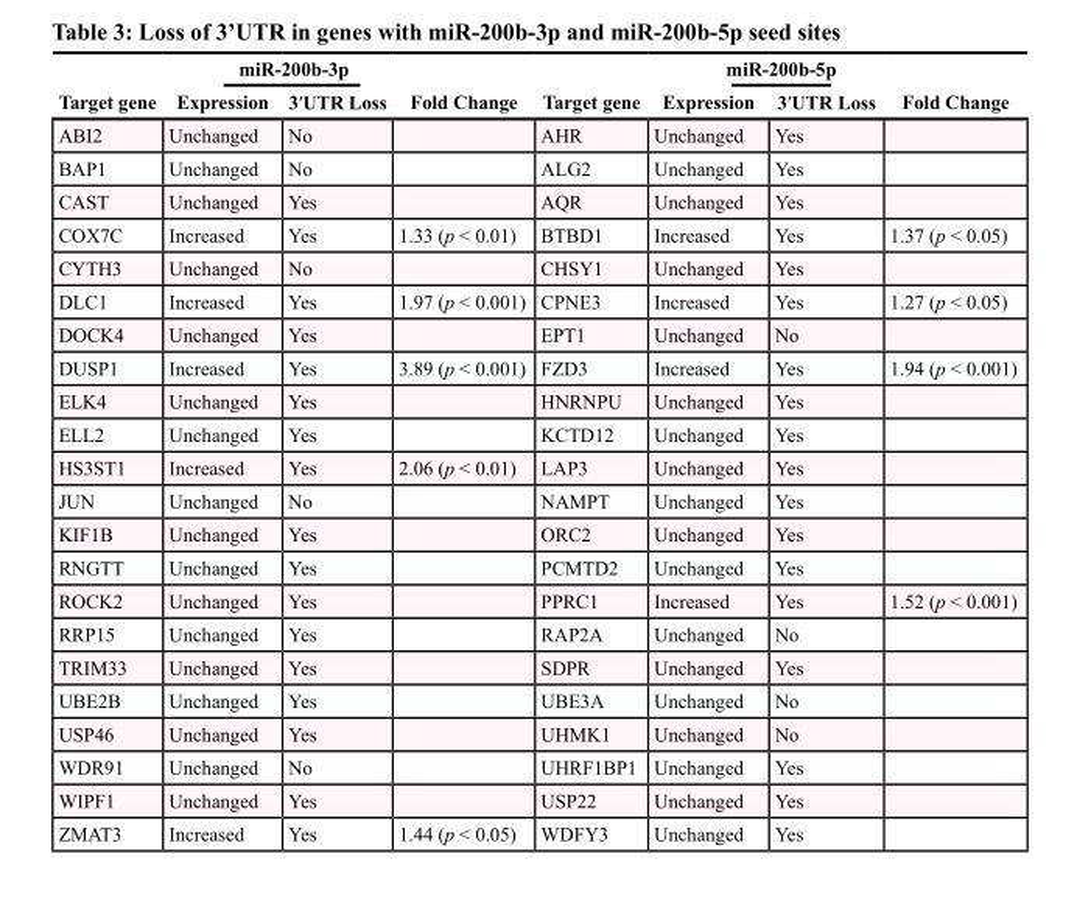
<table><thead><tr><td rowspan="2">Target gene</td><td colspan="2">miR-200b-3p</td><td rowspan="2">Fold Change</td><td rowspan="2">Target gene</td><td colspan="2">miR-200b-5p</td><td rowspan="2">Fold Change</td></tr><tr><td>Expression</td><td>3′UTR Loss</td><td>Expression</td><td>3′UTR Loss</td></tr></thead><tbody><tr><td>ABI2</td><td>Unchanged</td><td>No</td><td></td><td>AHR</td><td>Unchanged</td><td>Yes</td><td></td></tr><tr><td>BAP1</td><td>Unchanged</td><td>No</td><td></td><td>ALG2</td><td>Unchanged</td><td>Yes</td><td></td></tr><tr><td>CAST</td><td>Unchanged</td><td>Yes</td><td></td><td>AQR</td><td>Unchanged</td><td>Yes</td><td></td></tr><tr><td>COX7C</td><td>Increased</td><td>Yes</td><td>1.33 (p &lt; 0.01)</td><td>BTBD1</td><td>Increased</td><td>Yes</td><td>1.37 (p &lt; 0.05)</td></tr><tr><td>CYTH3</td><td>Unchanged</td><td>No</td><td></td><td>CHSY1</td><td>Unchanged</td><td>Yes</td><td></td></tr><tr><td>DLC1</td><td>Increased</td><td>Yes</td><td>1.97 (p &lt; 0.001)</td><td>CPNE3</td><td>Increased</td><td>Yes</td><td>1.27 (p &lt; 0.05)</td></tr><tr><td>DOCK4</td><td>Unchanged</td><td>Yes</td><td></td><td>EPT1</td><td>Unchanged</td><td>No</td><td></td></tr><tr><td>DUSP1</td><td>Increased</td><td>Yes</td><td>3.89 (p &lt; 0.001)</td><td>FZD3</td><td>Increased</td><td>Yes</td><td>1.94 (p &lt; 0.001)</td></tr><tr><td>ELK4</td><td>Unchanged</td><td>Yes</td><td></td><td>HNRNPU</td><td>Unchanged</td><td>Yes</td><td></td></tr><tr><td>ELL2</td><td>Unchanged</td><td>Yes</td><td></td><td>KCTD12</td><td>Unchanged</td><td>Yes</td><td></td></tr><tr><td>HS3ST1</td><td>Increased</td><td>Yes</td><td>2.06 (p &lt; 0.01)</td><td>LAP3</td><td>Unchanged</td><td>Yes</td><td></td></tr><tr><td>JUN</td><td>Unchanged</td><td>No</td><td></td><td>NAMPT</td><td>Unchanged</td><td>Yes</td><td></td></tr><tr><td>KIF1B</td><td>Unchanged</td><td>Yes</td><td></td><td>ORC2</td><td>Unchanged</td><td>Yes</td><td></td></tr><tr><td>RNGTT</td><td>Unchanged</td><td>Yes</td><td></td><td>PCMTD2</td><td>Unchanged</td><td>Yes</td><td></td></tr><tr><td>ROCK2</td><td>Unchanged</td><td>Yes</td><td></td><td>PPRC1</td><td>Increased</td><td>Yes</td><td>1.52 (p &lt; 0.001)</td></tr><tr><td>RRP15</td><td>Unchanged</td><td>Yes</td><td></td><td>RAP2A</td><td>Unchanged</td><td>No</td><td></td></tr><tr><td>TRIM33</td><td>Unchanged</td><td>Yes</td><td></td><td>SDPR</td><td>Unchanged</td><td>Yes</td><td></td></tr><tr><td>UBE2B</td><td>Unchanged</td><td>Yes</td><td></td><td>UBE3A</td><td>Unchanged</td><td>No</td><td></td></tr><tr><td>USP46</td><td>Unchanged</td><td>Yes</td><td></td><td>UHMK1</td><td>Unchanged</td><td>No</td><td></td></tr><tr><td>WDR91</td><td>Unchanged</td><td>No</td><td></td><td>UHRF1BP1</td><td>Unchanged</td><td>Yes</td><td></td></tr><tr><td>WIPF1</td><td>Unchanged</td><td>Yes</td><td></td><td>USP22</td><td>Unchanged</td><td>Yes</td><td></td></tr><tr><td>ZMAT3</td><td>Increased</td><td>Yes</td><td>1.44 (p &lt; 0.05)</td><td>WDFY3</td><td>Unchanged</td><td>Yes</td><td></td></tr></tbody></table>